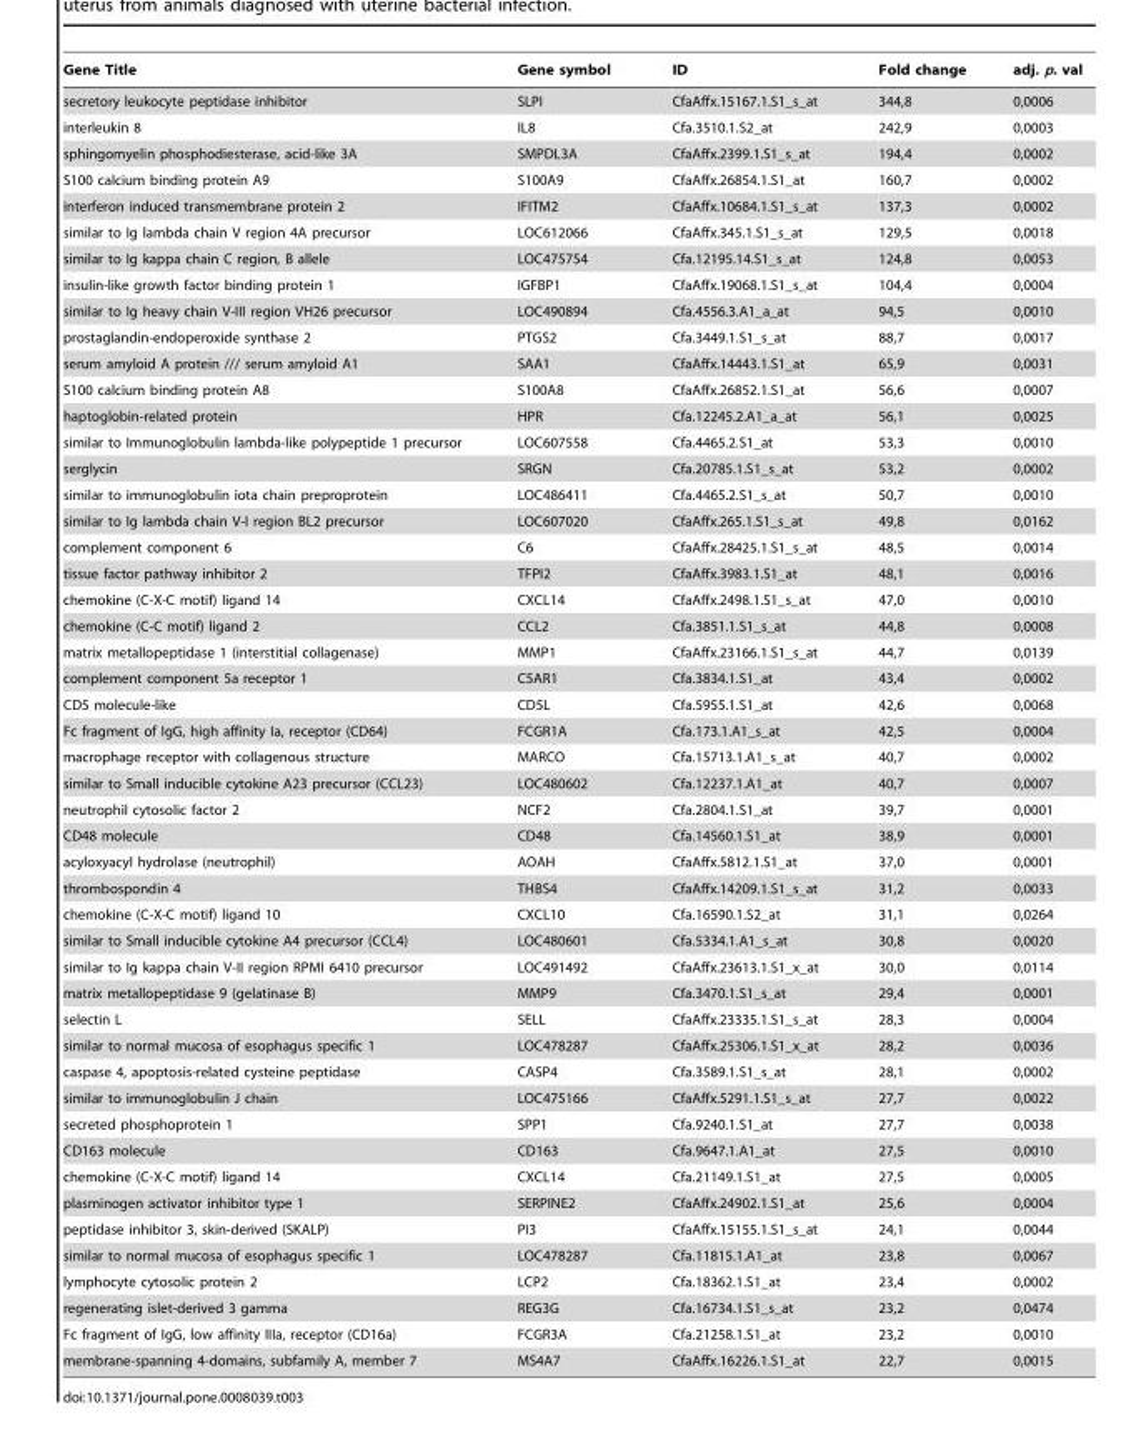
<table><thead><tr><td>Gene Title</td><td>Gene symbol</td><td>ID</td><td>Fold change</td><td>adj. p. val</td></tr></thead><tbody><tr><td>secretory leukocyte peptidase inhibitor</td><td>SLPI</td><td>CfaAffx.15167.1.S1_s_at</td><td>344,8</td><td>0,0006</td></tr><tr><td>interleukin 8</td><td>IL8</td><td>Cfa.3510.1.S2_at</td><td>242,9</td><td>0,0003</td></tr><tr><td>sphingomyelin phosphodiesterase, acid-like 3A</td><td>SMPDL3A</td><td>CfaAffx.2399.1.S1_s_at</td><td>194,4</td><td>0,0002</td></tr><tr><td>S100 calcium binding protein A9</td><td>S100A9</td><td>CfaAffx.26854.1.S1_at</td><td>160,7</td><td>0,0002</td></tr><tr><td>interferon induced transmembrane protein 2</td><td>IFITM2</td><td>CfaAffx.10684.1.S1_s_at</td><td>137,3</td><td>0,0002</td></tr><tr><td>similar to Ig lambda chain V region 4A precursor</td><td>LOC612066</td><td>CfaAffx.345.1.S1_s_at</td><td>129,5</td><td>0,0018</td></tr><tr><td>similar to Ig kappa chain C region, B allele</td><td>LOC475754</td><td>Cfa.12195.14.S1_s_at</td><td>124,8</td><td>0,0053</td></tr><tr><td>insulin-like growth factor binding protein 1</td><td>IGFBP1</td><td>CfaAffx.19068.1.S1_s_at</td><td>104,4</td><td>0,0004</td></tr><tr><td>similar to Ig heavy chain V-III region VH26 precursor</td><td>LOC490894</td><td>Cfa.4556.3.A1_a_at</td><td>94,5</td><td>0,0010</td></tr><tr><td>prostaglandin-endoperoxide synthase 2</td><td>PTGS2</td><td>Cfa.3449.1.S1_s_at</td><td>88,7</td><td>0,0017</td></tr><tr><td>serum amyloid A protein /// serum amyloid A1</td><td>SAA1</td><td>CfaAffx.14443.1.S1_at</td><td>65,9</td><td>0,0031</td></tr><tr><td>S100 calcium binding protein A8</td><td>S100A8</td><td>CfaAffx.26852.1.S1_at</td><td>56,6</td><td>0,0007</td></tr><tr><td>haptoglobin-related protein</td><td>HPR</td><td>Cfa.12245.2.A1_a_at</td><td>56,1</td><td>0,0025</td></tr><tr><td>similar to Immunoglobulin lambda-like polypeptide 1 precursor</td><td>LOC607558</td><td>Cfa.4465.2.S1_at</td><td>53,3</td><td>0,0010</td></tr><tr><td>serglycin</td><td>SRGN</td><td>Cfa.20785.1.S1_s_at</td><td>53,2</td><td>0,0002</td></tr><tr><td>similar to immunoglobulin iota chain preproprotein</td><td>LOC486411</td><td>Cfa.4465.2.S1_s_at</td><td>50,7</td><td>0,0010</td></tr><tr><td>similar to Ig lambda chain V-I region BL2 precursor</td><td>LOC607020</td><td>CfaAffx.265.1.S1_s_at</td><td>49,8</td><td>0,0162</td></tr><tr><td>complement component 6</td><td>C6</td><td>CfaAffx.28425.1.S1_s_at</td><td>48,5</td><td>0,0014</td></tr><tr><td>tissue factor pathway inhibitor 2</td><td>TFPI2</td><td>CfaAffx.3983.1.S1_at</td><td>48,1</td><td>0,0016</td></tr><tr><td>chemokine (C-X-C motif) ligand 14</td><td>CXCL14</td><td>CfaAffx.2498.1.S1_s_at</td><td>47,0</td><td>0,0010</td></tr><tr><td>chemokine (C-C motif) ligand 2</td><td>CCL2</td><td>Cfa.3851.1.S1_s_at</td><td>44,8</td><td>0,0008</td></tr><tr><td>matrix metallopeptidase 1 (interstitial collagenase)</td><td>MMP1</td><td>CfaAffx.23166.1.S1_s_at</td><td>44,7</td><td>0,0139</td></tr><tr><td>complement component 5a receptor 1</td><td>C5AR1</td><td>Cfa.3834.1.S1_at</td><td>43,4</td><td>0,0002</td></tr><tr><td>CD5 molecule-like</td><td>CD5L</td><td>Cfa.5955.1.S1_at</td><td>42,6</td><td>0,0068</td></tr><tr><td>Fc fragment of IgG, high affinity Ia, receptor (CD64)</td><td>FCGR1A</td><td>Cfa.173.1.A1_s_at</td><td>42,5</td><td>0,0004</td></tr><tr><td>macrophage receptor with collagenous structure</td><td>MARCO</td><td>Cfa.15713.1.A1_s_at</td><td>40,7</td><td>0,0002</td></tr><tr><td>similar to Small inducible cytokine A23 precursor (CCL23)</td><td>LOC480602</td><td>Cfa.12237.1.A1_at</td><td>40,7</td><td>0,0007</td></tr><tr><td>neutrophil cytosolic factor 2</td><td>NCF2</td><td>Cfa.2804.1.S1_at</td><td>39,7</td><td>0,0001</td></tr><tr><td>CD48 molecule</td><td>CD48</td><td>Cfa.14560.1.S1_at</td><td>38,9</td><td>0,0001</td></tr><tr><td>acyloxyacyl hydrolase (neutrophil)</td><td>AOAH</td><td>CfaAffx.5812.1.S1_at</td><td>37,0</td><td>0,0001</td></tr><tr><td>thrombospondin 4</td><td>THBS4</td><td>CfaAffx.14209.1.S1_s_at</td><td>31,2</td><td>0,0033</td></tr><tr><td>chemokine (C-X-C motif) ligand 10</td><td>CXCL10</td><td>Cfa.16590.1.S2_at</td><td>31,1</td><td>0,0264</td></tr><tr><td>similar to Small inducible cytokine A4 precursor (CCL4)</td><td>LOC480601</td><td>Cfa.5334.1.A1_s_at</td><td>30,8</td><td>0,0020</td></tr><tr><td>similar to Ig kappa chain V-II region RPMI 6410 precursor</td><td>LOC491492</td><td>CfaAffx.23613.1.S1_x_at</td><td>30,0</td><td>0,0114</td></tr><tr><td>matrix metallopeptidase 9 (gelatinase B)</td><td>MMP9</td><td>Cfa.3470.1.S1_s_at</td><td>29,4</td><td>0,0001</td></tr><tr><td>selectin L</td><td>SELL</td><td>CfaAffx.23335.1.S1_s_at</td><td>28,3</td><td>0,0004</td></tr><tr><td>similar to normal mucosa of esophagus specific 1</td><td>LOC478287</td><td>CfaAffx.25306.1.S1_x_at</td><td>28,2</td><td>0,0036</td></tr><tr><td>caspase 4, apoptosis-related cysteine peptidase</td><td>CASP4</td><td>Cfa.3589.1.S1_s_at</td><td>28,1</td><td>0,0002</td></tr><tr><td>similar to immunoglobulin J chain</td><td>LOC475166</td><td>CfaAffx.5291.1.S1_s_at</td><td>27,7</td><td>0,0022</td></tr><tr><td>secreted phosphoprotein 1</td><td>SPP1</td><td>Cfa.9240.1.S1_at</td><td>27,7</td><td>0,0038</td></tr><tr><td>CD163 molecule</td><td>CD163</td><td>Cfa.9647.1.A1_at</td><td>27,5</td><td>0,0010</td></tr><tr><td>chemokine (C-X-C motif) ligand 14</td><td>CXCL14</td><td>Cfa.21149.1.S1_at</td><td>27,5</td><td>0,0005</td></tr><tr><td>plasminogen activator inhibitor type 1</td><td>SERPINE2</td><td>CfaAffx.24902.1.S1_at</td><td>25,6</td><td>0,0004</td></tr><tr><td>peptidase inhibitor 3, skin-derived (SKALP)</td><td>PI3</td><td>CfaAffx.15155.1.S1_s_at</td><td>24,1</td><td>0,0044</td></tr><tr><td>similar to normal mucosa of esophagus specific 1</td><td>LOC478287</td><td>Cfa.11815.1.A1_at</td><td>23,8</td><td>0,0067</td></tr><tr><td>lymphocyte cytosolic protein 2</td><td>LCP2</td><td>Cfa.18362.1.S1_at</td><td>23,4</td><td>0,0002</td></tr><tr><td>regenerating islet-derived 3 gamma</td><td>REG3G</td><td>Cfa.16734.1.S1_s_at</td><td>23,2</td><td>0,0474</td></tr><tr><td>Fc fragment of IgG, low affinity IIIa, receptor (CD16a)</td><td>FCGR3A</td><td>Cfa.21258.1.S1_at</td><td>23,2</td><td>0,0010</td></tr><tr><td>membrane-spanning 4-domains, subfamily A, member 7</td><td>MS4A7</td><td>CfaAffx.16226.1.S1_at</td><td>22,7</td><td>0,0015</td></tr></tbody></table>